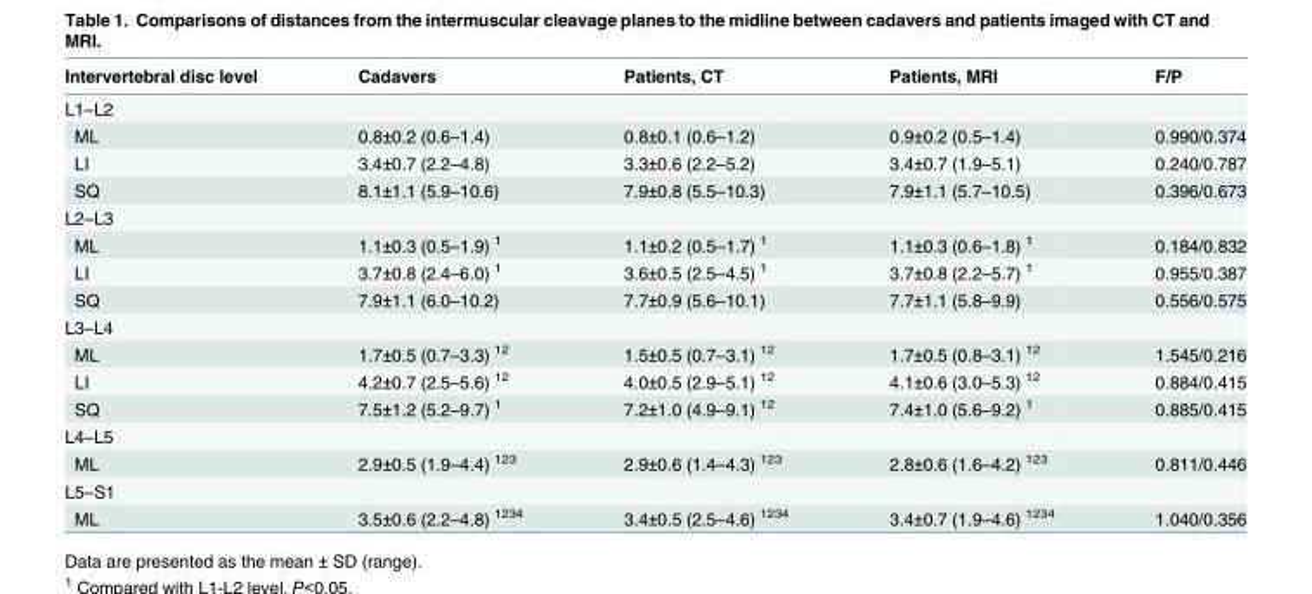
<table><thead><tr><td>Intervertebral disc level</td><td>Cadavers</td><td>Patients, CT</td><td>Patients, MRI</td><td>F/P</td></tr></thead><tbody><tr><td colspan="5">L1–L2</td></tr><tr><td>ML</td><td>0.8±0.2 (0.6–1.4)</td><td>0.8±0.1 (0.6–1.2)</td><td>0.9±0.2 (0.5–1.4)</td><td>0.990/0.374</td></tr><tr><td>LI</td><td>3.4±0.7 (2.2–4.8)</td><td>3.3±0.6 (2.2–5.2)</td><td>3.4±0.7 (1.9–5.1)</td><td>0.240/0.787</td></tr><tr><td>SQ</td><td>8.1±1.1 (5.9–10.6)</td><td>7.9±0.8 (5.5–10.3)</td><td>7.9±1.1 (5.7–10.5)</td><td>0.396/0.673</td></tr><tr><td colspan="5">L2–L3</td></tr><tr><td>ML</td><td>1.1±0.3 (0.5–1.9) <sup>1</sup></td><td>1.1±0.2 (0.5–1.7) <sup>1</sup></td><td>1.1±0.3 (0.6–1.8) <sup>1</sup></td><td>0.184/0.832</td></tr><tr><td>LI</td><td>3.7±0.8 (2.4–6.0) <sup>1</sup></td><td>3.6±0.5 (2.5–4.5) <sup>1</sup></td><td>3.7±0.8 (2.2–5.7) <sup>1</sup></td><td>0.955/0.387</td></tr><tr><td>SQ</td><td>7.9±1.1 (6.0–10.2)</td><td>7.7±0.9 (5.6–10.1)</td><td>7.7±1.1 (5.8–9.9)</td><td>0.556/0.575</td></tr><tr><td colspan="5">L3–L4</td></tr><tr><td>ML</td><td>1.7±0.5 (0.7–3.3) <sup>12</sup></td><td>1.5±0.5 (0.7–3.1) <sup>12</sup></td><td>1.7±0.5 (0.8–3.1) <sup>12</sup></td><td>1.545/0.216</td></tr><tr><td>LI</td><td>4.2±0.7 (2.5–5.6) <sup>12</sup></td><td>4.0±0.5 (2.9–5.1) <sup>12</sup></td><td>4.1±0.6 (3.0–5.3) <sup>12</sup></td><td>0.884/0.415</td></tr><tr><td>SQ</td><td>7.5±1.2 (5.2–9.7) <sup>1</sup></td><td>7.2±1.0 (4.9–9.1) <sup>12</sup></td><td>7.4±1.0 (5.6–9.2) <sup>1</sup></td><td>0.885/0.415</td></tr><tr><td colspan="5">L4–L5</td></tr><tr><td>ML</td><td>2.9±0.5 (1.9–4.4) <sup>123</sup></td><td>2.9±0.6 (1.4–4.3) <sup>123</sup></td><td>2.8±0.6 (1.6–4.2) <sup>123</sup></td><td>0.811/0.446</td></tr><tr><td colspan="5">L5–S1</td></tr><tr><td>ML</td><td>3.5±0.6 (2.2–4.8) <sup>1234</sup></td><td>3.4±0.5 (2.5–4.6) <sup>1234</sup></td><td>3.4±0.7 (1.9–4.6) <sup>1234</sup></td><td>1.040/0.356</td></tr></tbody></table>